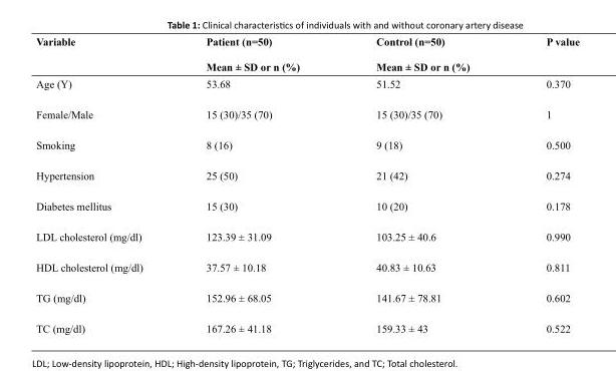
<table><thead><tr><td>Variable</td><td>Patient (n=50) Mean ± SD or n (%)</td><td>Control (n=50) Mean ± SD or n (%)</td><td>P value</td></tr></thead><tbody><tr><td>Age (Y)</td><td>53.68</td><td>51.52</td><td>0.370</td></tr><tr><td>Female/Male</td><td>15 (30)/35 (70)</td><td>15 (30)/35 (70)</td><td>1</td></tr><tr><td>Smoking</td><td>8 (16)</td><td>9 (18)</td><td>0.500</td></tr><tr><td>Hypertension</td><td>25 (50)</td><td>21 (42)</td><td>0.274</td></tr><tr><td>Diabetes mellitus</td><td>15 (30)</td><td>10 (20)</td><td>0.178</td></tr><tr><td>LDL cholesterol (mg/dl)</td><td>123.39 ± 31.09</td><td>103.25 ± 40.6</td><td>0.990</td></tr><tr><td>HDL cholesterol (mg/dl)</td><td>37.57 ± 10.18</td><td>40.83 ± 10.63</td><td>0.811</td></tr><tr><td>TG (mg/dl)</td><td>152.96 ± 68.05</td><td>141.67 ± 78.81</td><td>0.602</td></tr><tr><td>TC (mg/dl)</td><td>167.26 ± 41.18</td><td>159.33 ± 43</td><td>0.522</td></tr></tbody></table>